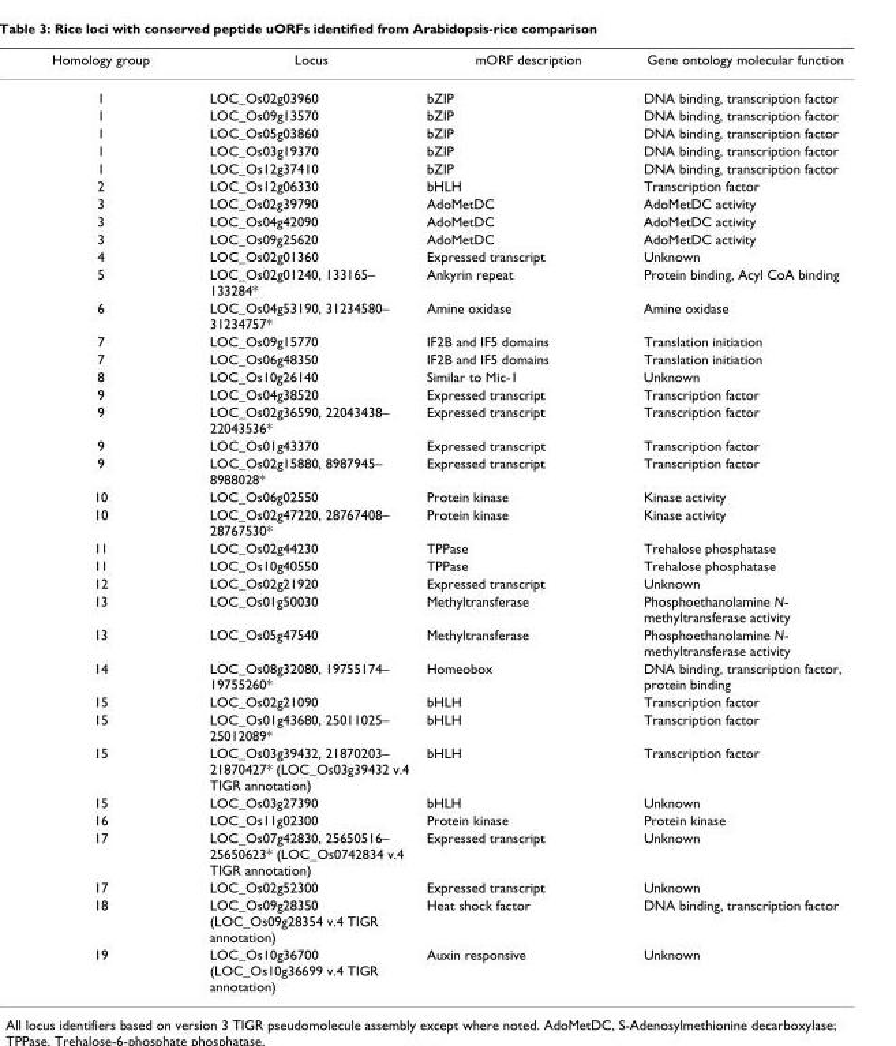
<table><thead><tr><td>Homology group</td><td>Locus</td><td>mORF description</td><td>Gene ontology molecular function</td></tr></thead><tbody><tr><td>1</td><td>LOC_Os02g03960</td><td>bZIP</td><td>DNA binding, transcription factor</td></tr><tr><td>1</td><td>LOC_Os09g13570</td><td>bZIP</td><td>DNA binding, transcription factor</td></tr><tr><td>1</td><td>LOC_Os05g03860</td><td>bZIP</td><td>DNA binding, transcription factor</td></tr><tr><td>1</td><td>LOC_Os03g19370</td><td>bZIP</td><td>DNA binding, transcription factor</td></tr><tr><td>1</td><td>LOC_Os12g37410</td><td>bZIP</td><td>DNA binding, transcription factor</td></tr><tr><td>2</td><td>LOC_Os12g06330</td><td>bHLH</td><td>Transcription factor</td></tr><tr><td>3</td><td>LOC_Os02g39790</td><td>AdoMetDC</td><td>AdoMetDC activity</td></tr><tr><td>3</td><td>LOC_Os04g42090</td><td>AdoMetDC</td><td>AdoMetDC activity</td></tr><tr><td>3</td><td>LOC_Os09g25620</td><td>AdoMetDC</td><td>AdoMetDC activity</td></tr><tr><td>4</td><td>LOC_Os02g01360</td><td>Expressed transcript</td><td>Unknown</td></tr><tr><td>5</td><td>LOC_Os02g01240, 133165– 133284*</td><td>Ankyrin repeat</td><td>Protein binding, Acyl CoA binding</td></tr><tr><td>6</td><td>LOC_Os04g53190, 31234580– 31234757*</td><td>Amine oxidase</td><td>Amine oxidase</td></tr><tr><td>7</td><td>LOC_Os09g15770</td><td>IF2B and IF5 domains</td><td>Translation initiation</td></tr><tr><td>7</td><td>LOC_Os06g48350</td><td>IF2B and IF5 domains</td><td>Translation initiation</td></tr><tr><td>8</td><td>LOC_Os10g26140</td><td>Similar to Mic-1</td><td>Unknown</td></tr><tr><td>9</td><td>LOC_Os04g38520</td><td>Expressed transcript</td><td>Transcription factor</td></tr><tr><td>9</td><td>LOC_Os02g36590, 22043438– 22043536*</td><td>Expressed transcript</td><td>Transcription factor</td></tr><tr><td>9</td><td>LOC_Os01g43370</td><td>Expressed transcript</td><td>Transcription factor</td></tr><tr><td>9</td><td>LOC_Os02g15880, 8987945– 8988028*</td><td>Expressed transcript</td><td>Transcription factor</td></tr><tr><td>10</td><td>LOC_Os06g02550</td><td>Protein kinase</td><td>Kinase activity</td></tr><tr><td>10</td><td>LOC_Os02g47220, 28767408– 28767530*</td><td>Protein kinase</td><td>Kinase activity</td></tr><tr><td>11</td><td>LOC_Os02g44230</td><td>TPPase</td><td>Trehalose phosphatase</td></tr><tr><td>11</td><td>LOC_Os10g40550</td><td>TPPase</td><td>Trehalose phosphatase</td></tr><tr><td>12</td><td>LOC_Os02g21920</td><td>Expressed transcript</td><td>Unknown</td></tr><tr><td>13</td><td>LOC_Os01g50030</td><td>Methyltransferase</td><td>Phosphoethanolamine N- methyltransferase activity</td></tr><tr><td>13</td><td>LOC_Os05g47540</td><td>Methyltransferase</td><td>Phosphoethanolamine N- methyltransferase activity</td></tr><tr><td>14</td><td>LOC_Os08g32080, 19755174– 19755260*</td><td>Homeobox</td><td>DNA binding, transcription factor, protein binding</td></tr><tr><td>15</td><td>LOC_Os02g21090</td><td>bHLH</td><td>Transcription factor</td></tr><tr><td>15</td><td>LOC_Os01g43680, 25011025– 25012089*</td><td>bHLH</td><td>Transcription factor</td></tr><tr><td>15</td><td>LOC_Os03g39432, 21870203– 21870427* (LOC_Os03g39432 v.4 TIGR annotation)</td><td>bHLH</td><td>Transcription factor</td></tr><tr><td>15</td><td>LOC_Os03g27390</td><td>bHLH</td><td>Unknown</td></tr><tr><td>16</td><td>LOC_Os11g02300</td><td>Protein kinase</td><td>Protein kinase</td></tr><tr><td>17</td><td>LOC_Os07g42830, 25650516– 25650623* (LOC_Os0742834 v.4 TIGR annotation)</td><td>Expressed transcript</td><td>Unknown</td></tr><tr><td>17</td><td>LOC_Os02g52300</td><td>Expressed transcript</td><td>Unknown</td></tr><tr><td>18</td><td>LOC_Os09g28350 (LOC_Os09g28354 v.4 TIGR annotation)</td><td>Heat shock factor</td><td>DNA binding, transcription factor</td></tr><tr><td>19</td><td>LOC_Os10g36700 (LOC_Os10g36699 v.4 TIGR annotation)</td><td>Auxin responsive</td><td>Unknown</td></tr></tbody></table>